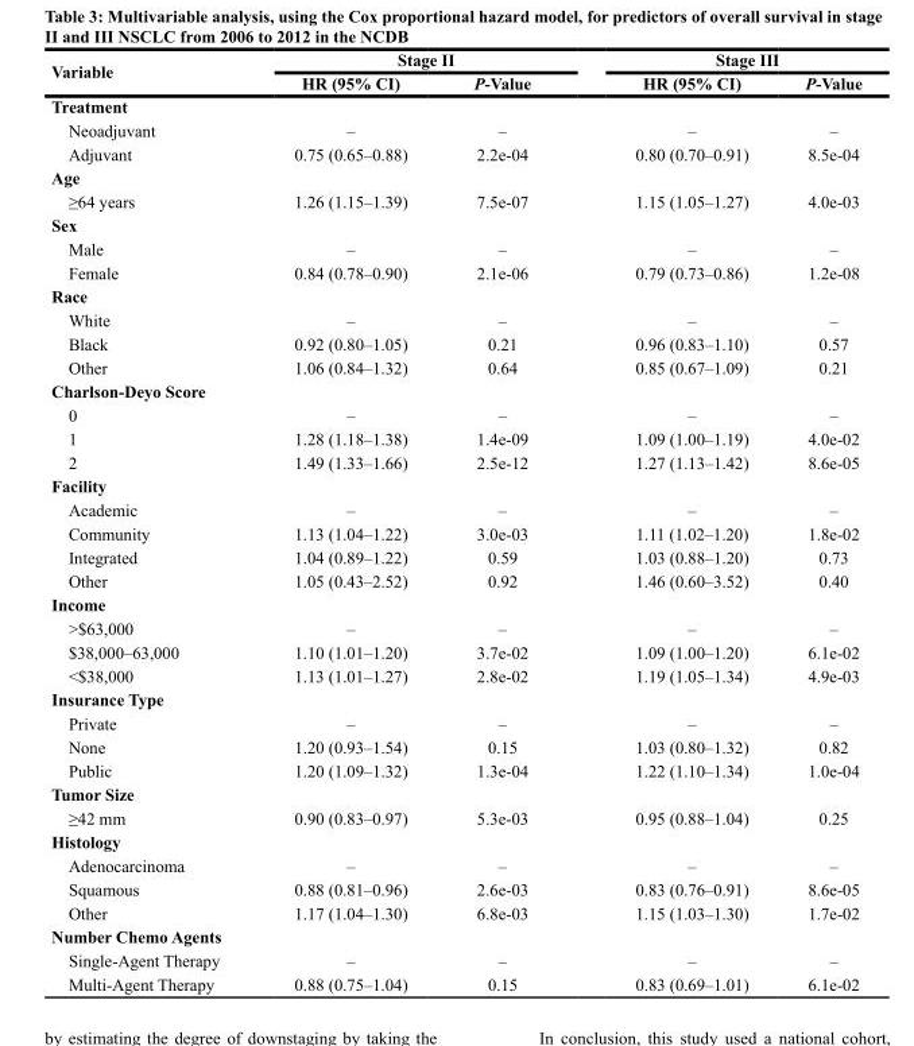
<table><thead><tr><td rowspan="2">Variable</td><td colspan="2">Stage II</td><td colspan="2">Stage III</td></tr><tr><td>HR (95% CI)</td><td>P-Value</td><td>HR (95% CI)</td><td>P-Value</td></tr></thead><tbody><tr><td colspan="5">Treatment</td></tr><tr><td>Neoadjuvant</td><td>–</td><td>–</td><td>–</td><td>–</td></tr><tr><td>Adjuvant</td><td>0.75 (0.65–0.88)</td><td>2.2e-04</td><td>0.80 (0.70–0.91)</td><td>8.5e-04</td></tr><tr><td colspan="5">Age</td></tr><tr><td>≥64 years</td><td>1.26 (1.15–1.39)</td><td>7.5e-07</td><td>1.15 (1.05–1.27)</td><td>4.0e-03</td></tr><tr><td colspan="5">Sex</td></tr><tr><td>Male</td><td>–</td><td>–</td><td>–</td><td>–</td></tr><tr><td>Female</td><td>0.84 (0.78–0.90)</td><td>2.1e-06</td><td>0.79 (0.73–0.86)</td><td>1.2e-08</td></tr><tr><td colspan="5">Race</td></tr><tr><td>White</td><td>–</td><td>–</td><td>–</td><td>–</td></tr><tr><td>Black</td><td>0.92 (0.80–1.05)</td><td>0.21</td><td>0.96 (0.83–1.10)</td><td>0.57</td></tr><tr><td>Other</td><td>1.06 (0.84–1.32)</td><td>0.64</td><td>0.85 (0.67–1.09)</td><td>0.21</td></tr><tr><td colspan="5">Charlson-Deyo Score</td></tr><tr><td>0</td><td>–</td><td>–</td><td>–</td><td>–</td></tr><tr><td>1</td><td>1.28 (1.18–1.38)</td><td>1.4e-09</td><td>1.09 (1.00–1.19)</td><td>4.0e-02</td></tr><tr><td>2</td><td>1.49 (1.33–1.66)</td><td>2.5e-12</td><td>1.27 (1.13–1.42)</td><td>8.6e-05</td></tr><tr><td colspan="5">Facility</td></tr><tr><td>Academic</td><td>–</td><td>–</td><td>–</td><td>–</td></tr><tr><td>Community</td><td>1.13 (1.04–1.22)</td><td>3.0e-03</td><td>1.11 (1.02–1.20)</td><td>1.8e-02</td></tr><tr><td>Integrated</td><td>1.04 (0.89–1.22)</td><td>0.59</td><td>1.03 (0.88–1.20)</td><td>0.73</td></tr><tr><td>Other</td><td>1.05 (0.43–2.52)</td><td>0.92</td><td>1.46 (0.60–3.52)</td><td>0.40</td></tr><tr><td colspan="5">Income</td></tr><tr><td>&gt;$63,000</td><td>–</td><td>–</td><td>–</td><td>–</td></tr><tr><td>$38,000–63,000</td><td>1.10 (1.01–1.20)</td><td>3.7e-02</td><td>1.09 (1.00–1.20)</td><td>6.1e-02</td></tr><tr><td>&lt;$38,000</td><td>1.13 (1.01–1.27)</td><td>2.8e-02</td><td>1.19 (1.05–1.34)</td><td>4.9e-03</td></tr><tr><td colspan="5">Insurance Type</td></tr><tr><td>Private</td><td>–</td><td>–</td><td>–</td><td>–</td></tr><tr><td>None</td><td>1.20 (0.93–1.54)</td><td>0.15</td><td>1.03 (0.80–1.32)</td><td>0.82</td></tr><tr><td>Public</td><td>1.20 (1.09–1.32)</td><td>1.3e-04</td><td>1.22 (1.10–1.34)</td><td>1.0e-04</td></tr><tr><td colspan="5">Tumor Size</td></tr><tr><td>≥42 mm</td><td>0.90 (0.83–0.97)</td><td>5.3e-03</td><td>0.95 (0.88–1.04)</td><td>0.25</td></tr><tr><td colspan="5">Histology</td></tr><tr><td>Adenocarcinoma</td><td>–</td><td>–</td><td>–</td><td>–</td></tr><tr><td>Squamous</td><td>0.88 (0.81–0.96)</td><td>2.6e-03</td><td>0.83 (0.76–0.91)</td><td>8.6e-05</td></tr><tr><td>Other</td><td>1.17 (1.04–1.30)</td><td>6.8e-03</td><td>1.15 (1.03–1.30)</td><td>1.7e-02</td></tr><tr><td colspan="5">Number Chemo Agents</td></tr><tr><td>Single-Agent Therapy</td><td>–</td><td>–</td><td>–</td><td>–</td></tr><tr><td>Multi-Agent Therapy</td><td>0.88 (0.75–1.04)</td><td>0.15</td><td>0.83 (0.69–1.01)</td><td>6.1e-02</td></tr></tbody></table>